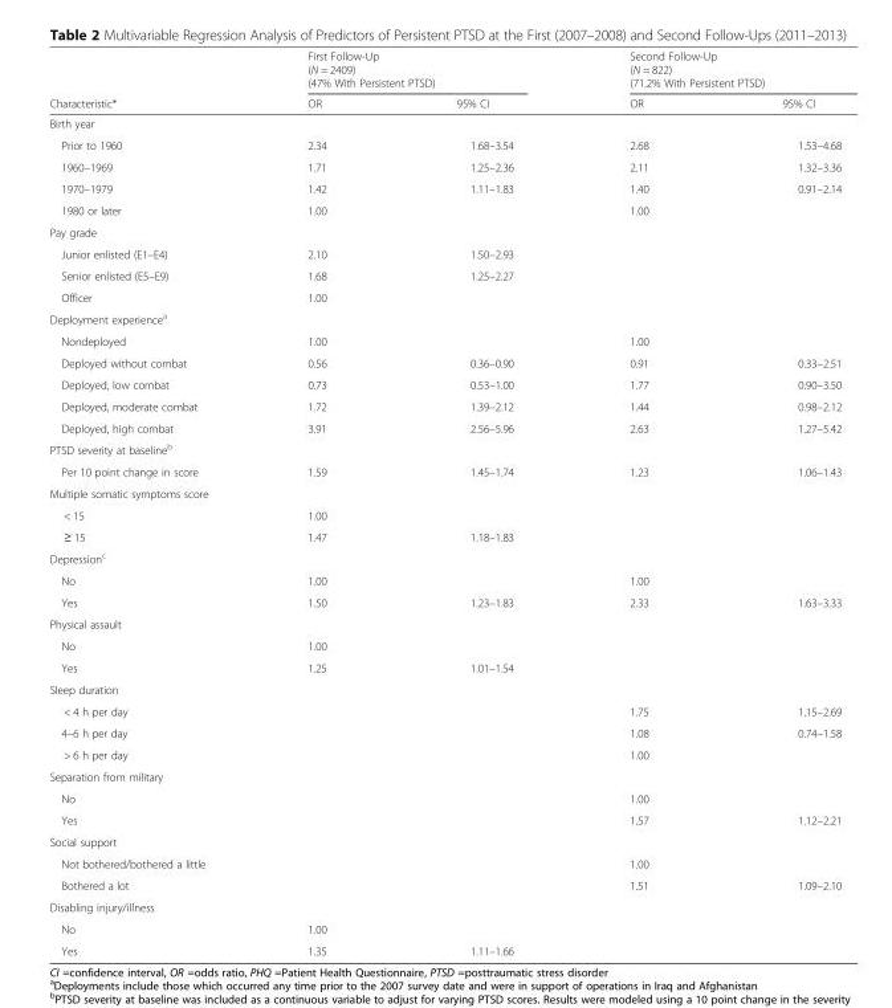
<table><thead><tr><td rowspan="2">Characteristic*</td><td colspan="2">First Follow-Up (N = 2409) (47% With Persistent PTSD)</td><td colspan="2">Second Follow-Up (N = 822) (71.2% With Persistent PTSD)</td></tr><tr><td>OR</td><td>95% CI</td><td>OR</td><td>95% CI</td></tr></thead><tbody><tr><td colspan="5">Birth year</td></tr><tr><td>Prior to 1960</td><td>2.34</td><td>1.68–3.54</td><td>2.68</td><td>1.53–4.68</td></tr><tr><td>1960–1969</td><td>1.71</td><td>1.25–2.36</td><td>2.11</td><td>1.32–3.36</td></tr><tr><td>1970–1979</td><td>1.42</td><td>1.11–1.83</td><td>1.40</td><td>0.91–2.14</td></tr><tr><td>1980 or later</td><td>1.00</td><td></td><td>1.00</td><td></td></tr><tr><td colspan="5">Pay grade</td></tr><tr><td>Junior enlisted (E1–E4)</td><td>2.10</td><td>1.50–2.93</td><td></td><td></td></tr><tr><td>Senior enlisted (E5–E9)</td><td>1.68</td><td>1.25–2.27</td><td></td><td></td></tr><tr><td>Officer</td><td>1.00</td><td></td><td></td><td></td></tr><tr><td colspan="5">Deployment experience<sup>a</sup></td></tr><tr><td>Nondeployed</td><td>1.00</td><td></td><td>1.00</td><td></td></tr><tr><td>Deployed without combat</td><td>0.56</td><td>0.36–0.90</td><td>0.91</td><td>0.33–2.51</td></tr><tr><td>Deployed, low combat</td><td>0.73</td><td>0.53–1.00</td><td>1.77</td><td>0.90–3.50</td></tr><tr><td>Deployed, moderate combat</td><td>1.72</td><td>1.39–2.12</td><td>1.44</td><td>0.98–2.12</td></tr><tr><td>Deployed, high combat</td><td>3.91</td><td>2.56–5.96</td><td>2.63</td><td>1.27–5.42</td></tr><tr><td colspan="5">PTSD severity at baseline<sup>b</sup></td></tr><tr><td>Per 10 point change in score</td><td>1.59</td><td>1.45–1.74</td><td>1.23</td><td>1.06–1.43</td></tr><tr><td colspan="5">Multiple somatic symptoms score</td></tr><tr><td>&lt; 15</td><td>1.00</td><td></td><td></td><td></td></tr><tr><td>≥ 15</td><td>1.47</td><td>1.18–1.83</td><td></td><td></td></tr><tr><td colspan="5">Depression<sup>c</sup></td></tr><tr><td>No</td><td>1.00</td><td></td><td>1.00</td><td></td></tr><tr><td>Yes</td><td>1.50</td><td>1.23–1.83</td><td>2.33</td><td>1.63–3.33</td></tr><tr><td colspan="5">Physical assault</td></tr><tr><td>No</td><td>1.00</td><td></td><td></td><td></td></tr><tr><td>Yes</td><td>1.25</td><td>1.01–1.54</td><td></td><td></td></tr><tr><td colspan="5">Sleep duration</td></tr><tr><td>&lt; 4 h per day</td><td></td><td></td><td>1.75</td><td>1.15–2.69</td></tr><tr><td>4–6 h per day</td><td></td><td></td><td>1.08</td><td>0.74–1.58</td></tr><tr><td>&gt; 6 h per day</td><td></td><td></td><td>1.00</td><td></td></tr><tr><td colspan="5">Separation from military</td></tr><tr><td>No</td><td></td><td></td><td>1.00</td><td></td></tr><tr><td>Yes</td><td></td><td></td><td>1.57</td><td>1.12–2.21</td></tr><tr><td colspan="5">Social support</td></tr><tr><td>Not bothered/bothered a little</td><td></td><td></td><td>1.00</td><td></td></tr><tr><td>Bothered a lot</td><td></td><td></td><td>1.51</td><td>1.09–2.10</td></tr><tr><td colspan="5">Disabling injury/illness</td></tr><tr><td>No</td><td>1.00</td><td></td><td></td><td></td></tr><tr><td>Yes</td><td>1.35</td><td>1.11–1.66</td><td></td><td></td></tr></tbody></table>